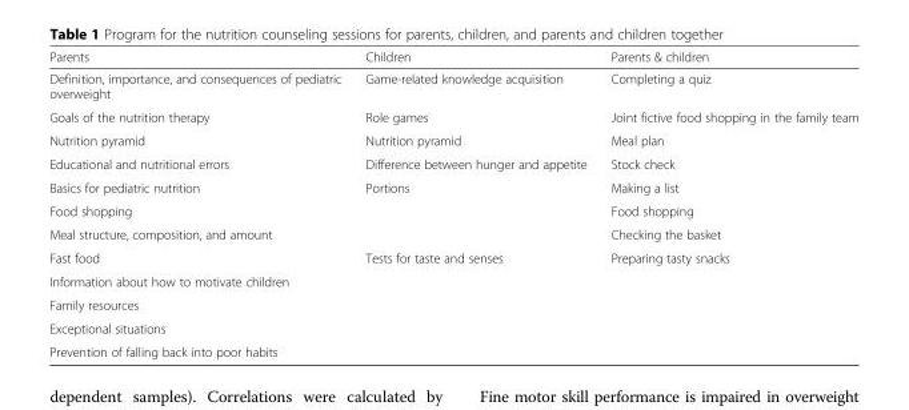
<table><thead><tr><td>Parents</td><td>Children</td><td>Parents &amp; children</td></tr></thead><tbody><tr><td>Definition, importance, and consequences of pediatric overweight</td><td>Game-related knowledge acquisition</td><td>Completing a quiz</td></tr><tr><td>Goals of the nutrition therapy</td><td>Role games</td><td>Joint fictive food shopping in the family team</td></tr><tr><td>Nutrition pyramid</td><td>Nutrition pyramid</td><td>Meal plan</td></tr><tr><td>Educational and nutritional errors</td><td>Difference between hunger and appetite</td><td>Stock check</td></tr><tr><td>Basics for pediatric nutrition</td><td>Portions</td><td>Making a list</td></tr><tr><td>Food shopping</td><td></td><td>Food shopping</td></tr><tr><td>Meal structure, composition, and amount</td><td></td><td>Checking the basket</td></tr><tr><td>Fast food</td><td>Tests for taste and senses</td><td>Preparing tasty snacks</td></tr><tr><td colspan="3">Information about how to motivate children</td></tr><tr><td colspan="3">Family resources</td></tr><tr><td colspan="3">Exceptional situations</td></tr><tr><td>Prevention of falling back into poor habits</td><td></td><td></td></tr></tbody></table>